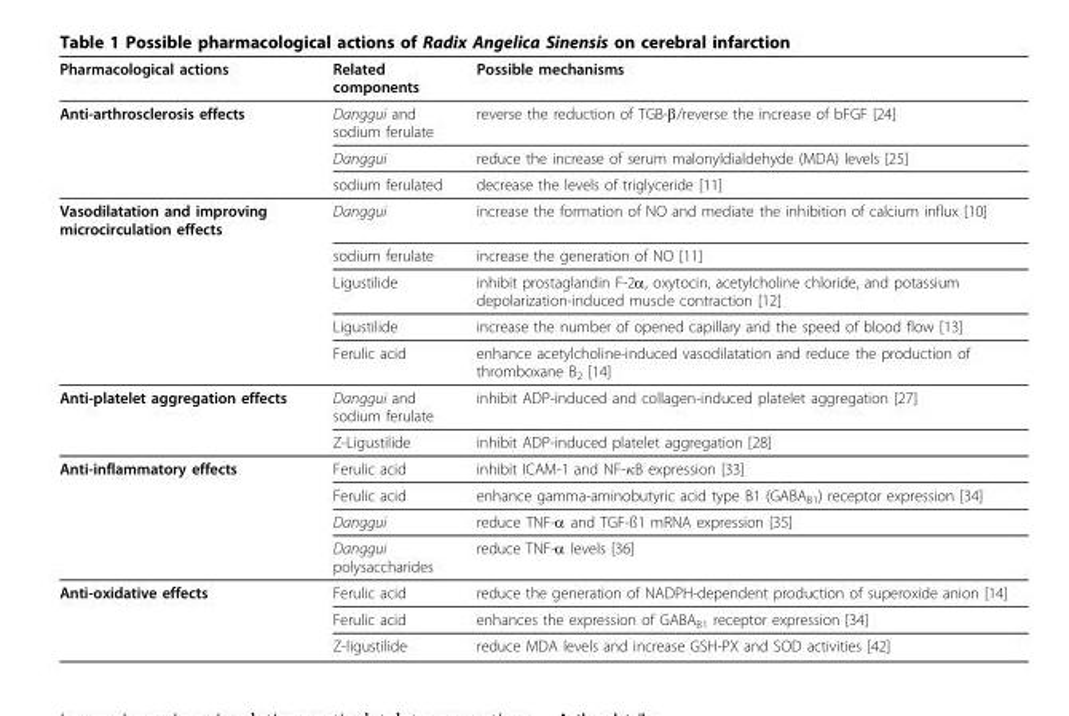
<table><thead><tr><td>Pharmacological actions</td><td>Related components</td><td>Possible mechanisms</td></tr></thead><tbody><tr><td rowspan="3">Anti-arthrosclerosis effects</td><td>Danggui and sodium ferulate</td><td>reverse the reduction of TGB-β/reverse the increase of bFGF [24]</td></tr><tr><td>Danggui</td><td>reduce the increase of serum malonyldialdehyde (MDA) levels [25]</td></tr><tr><td>sodium ferulated</td><td>decrease the levels of triglyceride [11]</td></tr><tr><td rowspan="5">Vasodilatation and improving microcirculation effects</td><td>Danggui</td><td>increase the formation of NO and mediate the inhibition of calcium influx [10]</td></tr><tr><td>sodium ferulate</td><td>increase the generation of NO [11]</td></tr><tr><td>Ligustilide</td><td>inhibit prostaglandin F-2α, oxytocin, acetylcholine chloride, and potassium depolarization-induced muscle contraction [12]</td></tr><tr><td>Ligustilide</td><td>increase the number of opened capillary and the speed of blood flow [13]</td></tr><tr><td>Ferulic acid</td><td>enhance acetylcholine-induced vasodilatation and reduce the production of thromboxane B<sub>2</sub> [14]</td></tr><tr><td rowspan="2">Anti-platelet aggregation effects</td><td>Danggui and sodium ferulate</td><td>inhibit ADP-induced and collagen-induced platelet aggregation [27]</td></tr><tr><td>Z-Ligustilide</td><td>inhibit ADP-induced platelet aggregation [28]</td></tr><tr><td rowspan="4">Anti-inflammatory effects</td><td>Ferulic acid</td><td>inhibit ICAM-1 and NF-κB expression [33]</td></tr><tr><td>Ferulic acid</td><td>enhance gamma-aminobutyric acid type B1 (GABA<sub>B1</sub>) receptor expression [34]</td></tr><tr><td>Danggui</td><td>reduce TNF-α and TGF-ß1 mRNA expression [35]</td></tr><tr><td>Danggui polysaccharides</td><td>reduce TNF-α levels [36]</td></tr><tr><td rowspan="3">Anti-oxidative effects</td><td>Ferulic acid</td><td>reduce the generation of NADPH-dependent production of superoxide anion [14]</td></tr><tr><td>Ferulic acid</td><td>enhances the expression of GABA<sub>B1</sub> receptor expression [34]</td></tr><tr><td>Z-ligustilide</td><td>reduce MDA levels and increase GSH-PX and SOD activities [42]</td></tr></tbody></table>